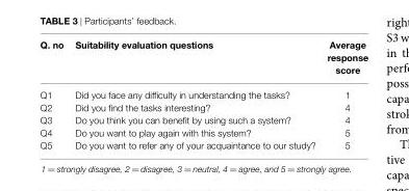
<table><thead><tr><td>Q. no</td><td>Suitability evaluation questions</td><td>Average response score</td></tr></thead><tbody><tr><td>Q1</td><td>Did you face any difficulty in understanding the tasks?</td><td>1</td></tr><tr><td>Q2</td><td>Did you find the tasks interesting?</td><td>4</td></tr><tr><td>Q3</td><td>Do you think you can benefit by using such a system?</td><td>4</td></tr><tr><td>Q4</td><td>Do you want to play again with this system?</td><td>5</td></tr><tr><td>Q5</td><td>Do you want to refer any of your acquaintance to our study?</td><td>5</td></tr></tbody></table>